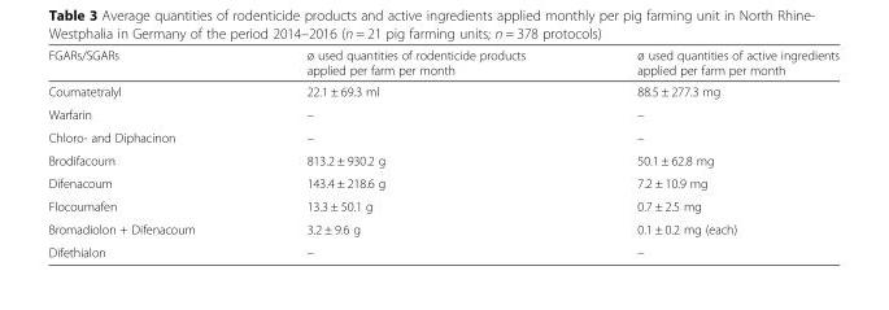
<table><thead><tr><td>FGARs/SGARs</td><td>ø used quantities of rodenticide products applied per farm per month</td><td>ø used quantities of active ingredients applied per farm per month</td></tr></thead><tbody><tr><td>Coumatetralyl</td><td>22.1 ± 69.3 ml</td><td>88.5 ± 277.3 mg</td></tr><tr><td>Warfarin</td><td>–</td><td>–</td></tr><tr><td>Chloro- and Diphacinon</td><td>–</td><td>–</td></tr><tr><td>Brodifacoum</td><td>813.2 ± 930.2 g</td><td>50.1 ± 62.8 mg</td></tr><tr><td>Difenacoum</td><td>143.4 ± 218.6 g</td><td>7.2 ± 10.9 mg</td></tr><tr><td>Flocoumafen</td><td>13.3 ± 50.1 g</td><td>0.7 ± 2.5 mg</td></tr><tr><td>Bromadiolon + Difenacoum</td><td>3.2 ± 9.6 g</td><td>0.1 ± 0.2 mg (each)</td></tr><tr><td>Difethialon</td><td>–</td><td>–</td></tr></tbody></table>